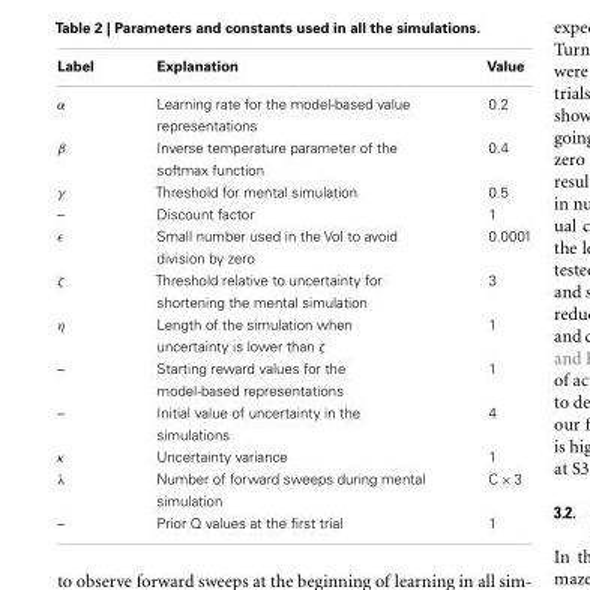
<table><thead><tr><td>Label</td><td>Explanation</td><td>Value</td></tr></thead><tbody><tr><td>α</td><td>Learning rate for the model-based value representations</td><td>0.2</td></tr><tr><td>β</td><td>Inverse temperature parameter of the softmax function</td><td>0.4</td></tr><tr><td>γ</td><td>Threshold for mental simulation</td><td>0.5</td></tr><tr><td>–</td><td>Discount factor</td><td>1</td></tr><tr><td>ϵ</td><td>Small number used in the VoI to avoid division by zero</td><td>0.0001</td></tr><tr><td>ζ</td><td>Threshold relative to uncertainty for shortening the mental simulation</td><td>3</td></tr><tr><td>η</td><td>Length of the simulation when uncertainty is lower than ζ</td><td>1</td></tr><tr><td>–</td><td>Starting reward values for the model-based representations</td><td>1</td></tr><tr><td>–</td><td>Initial value of uncertainty in the simulations</td><td>4</td></tr><tr><td>κ</td><td>Uncertainty variance</td><td>1</td></tr><tr><td>λ</td><td>Number of forward sweeps during mental simulation</td><td>C × 3</td></tr><tr><td>–</td><td>Prior Q values at the first trial</td><td>1</td></tr></tbody></table>